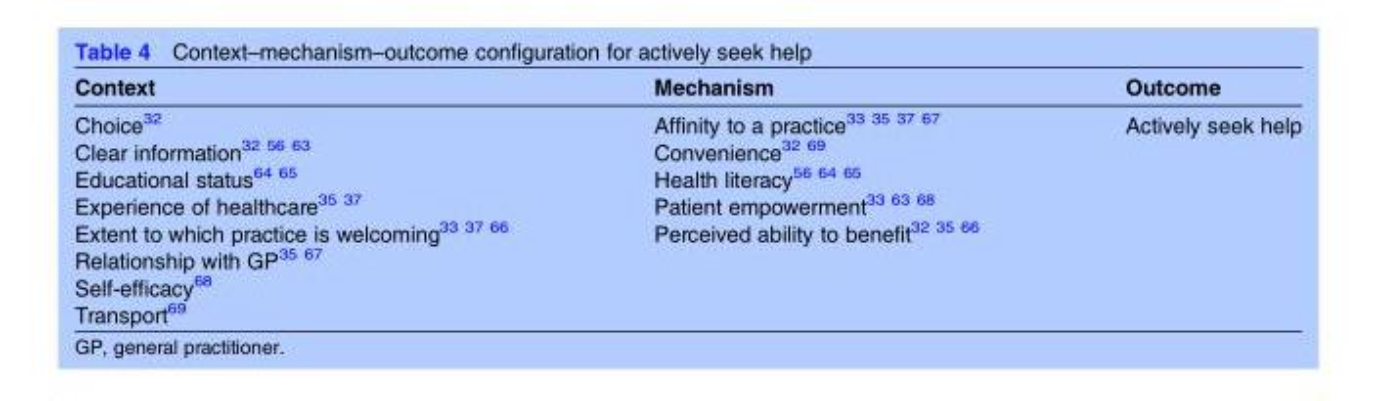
<table><thead><tr><td>Context</td><td>Mechanism</td><td>Outcome</td></tr></thead><tbody><tr><td>Choice<sup>32</sup> Clear information<sup>32 56 63</sup> Educational status<sup>64 65</sup> Experience of healthcare<sup>35 37</sup> Extent to which practice is welcoming<sup>33 37 66</sup> Relationship with GP<sup>35 67</sup> Self-efficacy<sup>68</sup> Transport<sup>69</sup></td><td>Affinity to a practice<sup>33 35 37 67</sup> Convenience<sup>32 69</sup> Health literacy<sup>56 64 65</sup> Patient empowerment<sup>33 63 68</sup> Perceived ability to benefit<sup>32 35 66</sup></td><td>Actively seek help</td></tr></tbody></table>